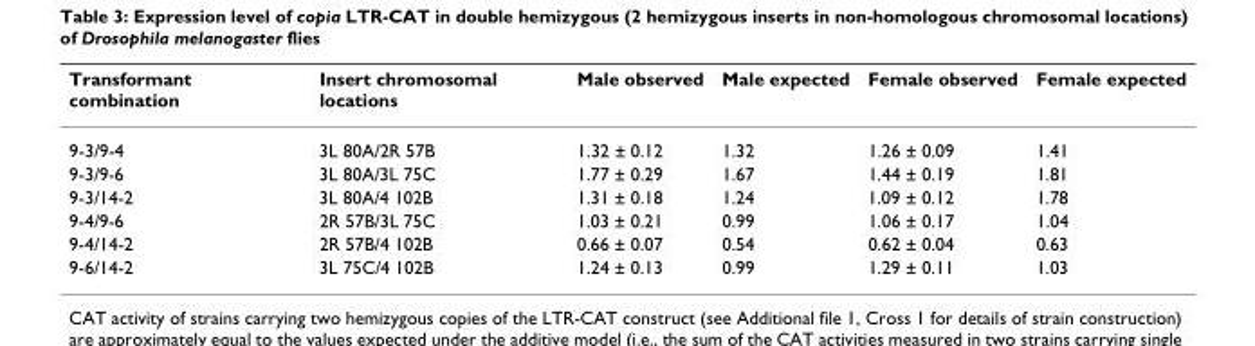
<table><thead><tr><td>Transformant combination</td><td>Insert chromosomal locations</td><td>Male observed</td><td>Male expected</td><td>Female observed</td><td>Female expected</td></tr></thead><tbody><tr><td>9-3/9-4</td><td>3L 80A/2R 57B</td><td>1.32 ± 0.12</td><td>1.32</td><td>1.26 ± 0.09</td><td>1.41</td></tr><tr><td>9-3/9-6</td><td>3L 80A/3L 75C</td><td>1.77 ± 0.29</td><td>1.67</td><td>1.44 ± 0.19</td><td>1.81</td></tr><tr><td>9-3/14-2</td><td>3L 80A/4 102B</td><td>1.31 ± 0.18</td><td>1.24</td><td>1.09 ± 0.12</td><td>1.78</td></tr><tr><td>9-4/9-6</td><td>2R 57B/3L 75C</td><td>1.03 ± 0.21</td><td>0.99</td><td>1.06 ± 0.17</td><td>1.04</td></tr><tr><td>9-4/14-2</td><td>2R 57B/4 102B</td><td>0.66 ± 0.07</td><td>0.54</td><td>0.62 ± 0.04</td><td>0.63</td></tr><tr><td>9-6/14-2</td><td>3L 75C/4 102B</td><td>1.24 ± 0.13</td><td>0.99</td><td>1.29 ± 0.11</td><td>1.03</td></tr></tbody></table>